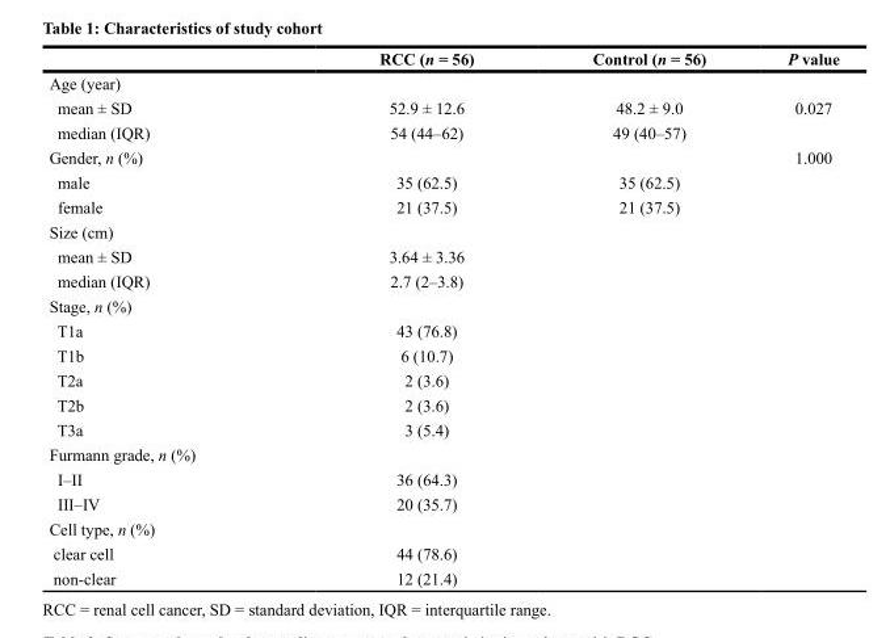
<table><thead><tr><td></td><td>RCC (n = 56)</td><td>Control (n = 56)</td><td>P value</td></tr></thead><tbody><tr><td colspan="4">Age (year)</td></tr><tr><td>mean ± SD</td><td>52.9 ± 12.6</td><td>48.2 ± 9.0</td><td>0.027</td></tr><tr><td>median (IQR)</td><td>54 (44–62)</td><td>49 (40–57)</td><td></td></tr><tr><td>Gender, n (%)</td><td></td><td></td><td>1.000</td></tr><tr><td>male</td><td>35 (62.5)</td><td>35 (62.5)</td><td></td></tr><tr><td>female</td><td>21 (37.5)</td><td>21 (37.5)</td><td></td></tr><tr><td colspan="4">Size (cm)</td></tr><tr><td>mean ± SD</td><td>3.64 ± 3.36</td><td></td><td></td></tr><tr><td>median (IQR)</td><td>2.7 (2–3.8)</td><td></td><td></td></tr><tr><td colspan="4">Stage, n (%)</td></tr><tr><td>T1a</td><td>43 (76.8)</td><td></td><td></td></tr><tr><td>T1b</td><td>6 (10.7)</td><td></td><td></td></tr><tr><td>T2a</td><td>2 (3.6)</td><td></td><td></td></tr><tr><td>T2b</td><td>2 (3.6)</td><td></td><td></td></tr><tr><td>T3a</td><td>3 (5.4)</td><td></td><td></td></tr><tr><td colspan="4">Furmann grade, n (%)</td></tr><tr><td>I–II</td><td>36 (64.3)</td><td></td><td></td></tr><tr><td>III–IV</td><td>20 (35.7)</td><td></td><td></td></tr><tr><td colspan="4">Cell type, n (%)</td></tr><tr><td>clear cell</td><td>44 (78.6)</td><td></td><td></td></tr><tr><td>non-clear</td><td>12 (21.4)</td><td></td><td></td></tr></tbody></table>